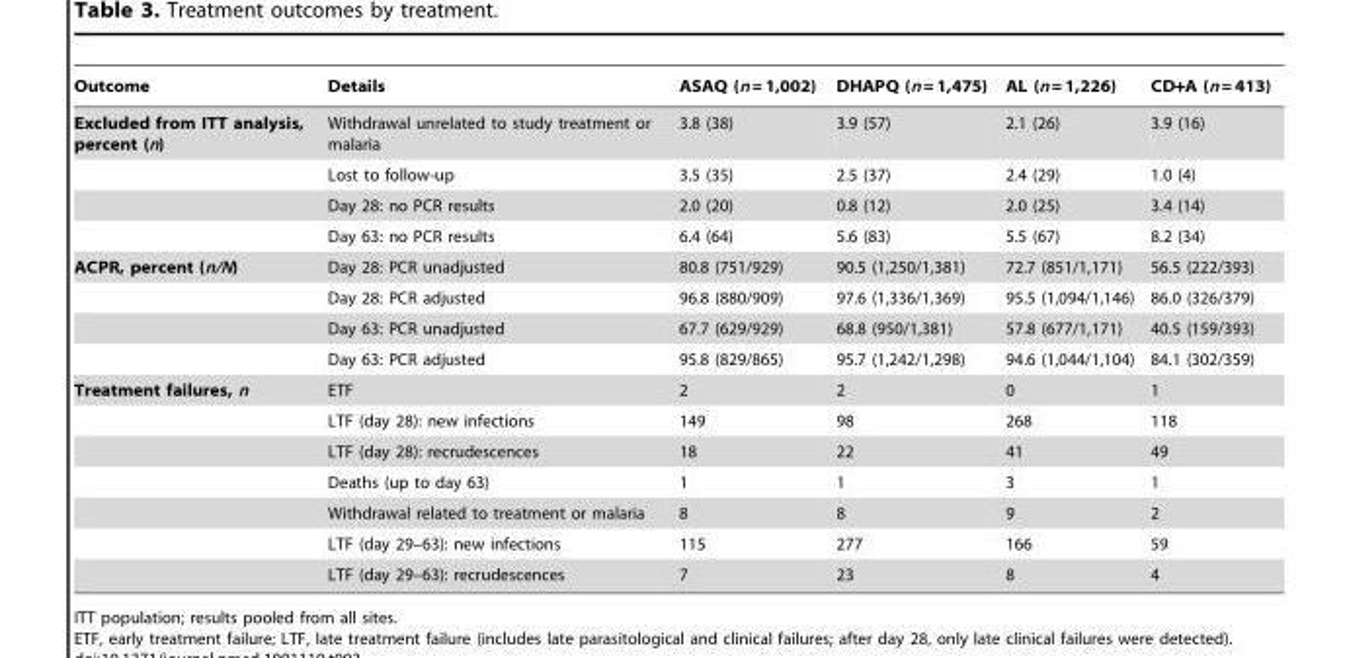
<table><thead><tr><td>Outcome</td><td>Details</td><td>ASAQ (n = 1,002)</td><td>DHAPQ (n = 1,475)</td><td>AL (n = 1,226)</td><td>CD+A (n = 413)</td></tr></thead><tbody><tr><td rowspan="4">Excluded from ITT analysis, percent (n)</td><td>Withdrawal unrelated to study treatment or malaria</td><td>3.8 (38)</td><td>3.9 (57)</td><td>2.1 (26)</td><td>3.9 (16)</td></tr><tr><td>Lost to follow-up</td><td>3.5 (35)</td><td>2.5 (37)</td><td>2.4 (29)</td><td>1.0 (4)</td></tr><tr><td>Day 28: no PCR results</td><td>2.0 (20)</td><td>0.8 (12)</td><td>2.0 (25)</td><td>3.4 (14)</td></tr><tr><td>Day 63: no PCR results</td><td>6.4 (64)</td><td>5.6 (83)</td><td>5.5 (67)</td><td>8.2 (34)</td></tr><tr><td rowspan="4">ACPR, percent (n/N)</td><td>Day 28: PCR unadjusted</td><td>80.8 (751/929)</td><td>90.5 (1,250/1,381)</td><td>72.7 (851/1,171)</td><td>56.5 (222/393)</td></tr><tr><td>Day 28: PCR adjusted</td><td>96.8 (880/909)</td><td>97.6 (1,336/1,369)</td><td>95.5 (1,094/1,146)</td><td>86.0 (326/379)</td></tr><tr><td>Day 63: PCR unadjusted</td><td>67.7 (629/929)</td><td>68.8 (950/1,381)</td><td>57.8 (677/1,171)</td><td>40.5 (159/393)</td></tr><tr><td>Day 63: PCR adjusted</td><td>95.8 (829/865)</td><td>95.7 (1,242/1,298)</td><td>94.6 (1,044/1,104)</td><td>84.1 (302/359)</td></tr><tr><td rowspan="7">Treatment failures, n</td><td>ETF</td><td>2</td><td>2</td><td>0</td><td>1</td></tr><tr><td>LTF (day 28): new infections</td><td>149</td><td>98</td><td>268</td><td>118</td></tr><tr><td>LTF (day 28): recrudescences</td><td>18</td><td>22</td><td>41</td><td>49</td></tr><tr><td>Deaths (up to day 63)</td><td>1</td><td>1</td><td>3</td><td>1</td></tr><tr><td>Withdrawal related to treatment or malaria</td><td>8</td><td>8</td><td>9</td><td>2</td></tr><tr><td>LTF (day 29–63): new infections</td><td>115</td><td>277</td><td>166</td><td>59</td></tr><tr><td>LTF (day 29–63): recrudescences</td><td>7</td><td>23</td><td>8</td><td>4</td></tr></tbody></table>